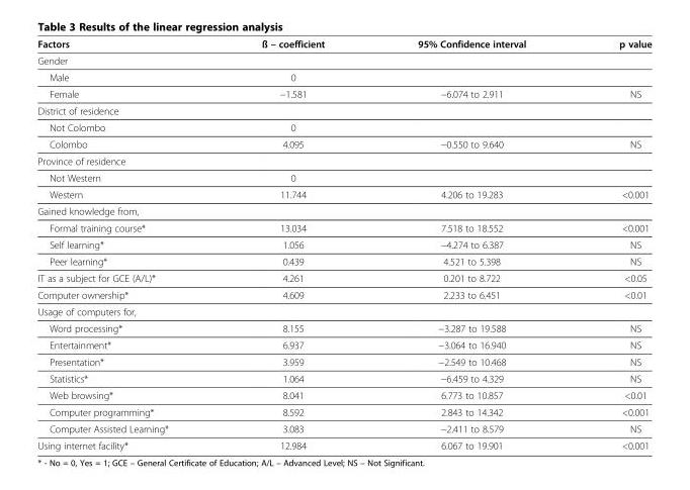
<table><thead><tr><td>Factors</td><td>ß – coefficient</td><td>95% Confidence interval</td><td>p value</td></tr></thead><tbody><tr><td colspan="4">Gender</td></tr><tr><td>Male</td><td>0</td><td></td><td></td></tr><tr><td>Female</td><td>−1.581</td><td>−6.074 to 2.911</td><td>NS</td></tr><tr><td colspan="4">District of residence</td></tr><tr><td>Not Colombo</td><td>0</td><td></td><td></td></tr><tr><td>Colombo</td><td>4.095</td><td>−0.550 to 9.640</td><td>NS</td></tr><tr><td colspan="4">Province of residence</td></tr><tr><td>Not Western</td><td>0</td><td></td><td></td></tr><tr><td>Western</td><td>11.744</td><td>4.206 to 19.283</td><td>&lt;0.001</td></tr><tr><td colspan="4">Gained knowledge from,</td></tr><tr><td>Formal training course*</td><td>13.034</td><td>7.518 to 18.552</td><td>&lt;0.001</td></tr><tr><td>Self learning*</td><td>1.056</td><td>−4.274 to 6.387</td><td>NS</td></tr><tr><td>Peer learning*</td><td>0.439</td><td>4.521 to 5.398</td><td>NS</td></tr><tr><td>IT as a subject for GCE (A/L)*</td><td>4.261</td><td>0.201 to 8.722</td><td>&lt;0.05</td></tr><tr><td>Computer ownership*</td><td>4.609</td><td>2.233 to 6.451</td><td>&lt;0.01</td></tr><tr><td colspan="4">Usage of computers for,</td></tr><tr><td>Word processing*</td><td>8.155</td><td>−3.287 to 19.588</td><td>NS</td></tr><tr><td>Entertainment*</td><td>6.937</td><td>−3.064 to 16.940</td><td>NS</td></tr><tr><td>Presentation*</td><td>3.959</td><td>−2.549 to 10.468</td><td>NS</td></tr><tr><td>Statistics*</td><td>1.064</td><td>−6.459 to 4.329</td><td>NS</td></tr><tr><td>Web browsing*</td><td>8.041</td><td>6.773 to 10.857</td><td>&lt;0.01</td></tr><tr><td>Computer programming*</td><td>8.592</td><td>2.843 to 14.342</td><td>&lt;0.001</td></tr><tr><td>Computer Assisted Learning*</td><td>3.083</td><td>−2.411 to 8.579</td><td>NS</td></tr><tr><td>Using internet facility*</td><td>12.984</td><td>6.067 to 19.901</td><td>&lt;0.001</td></tr></tbody></table>